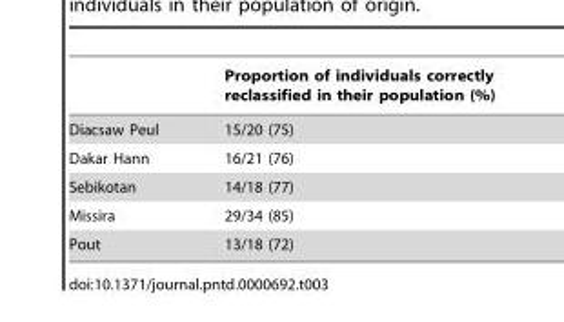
<table><thead><tr><td></td><td>Proportion of individuals correctly reclassified in their population (%)</td></tr></thead><tbody><tr><td>Diacsaw Peul</td><td>15/20 (75)</td></tr><tr><td>Dakar Hann</td><td>16/21 (76)</td></tr><tr><td>Sebikotan</td><td>14/18 (77)</td></tr><tr><td>Missira</td><td>29/34 (85)</td></tr><tr><td>Pout</td><td>13/18 (72)</td></tr></tbody></table>